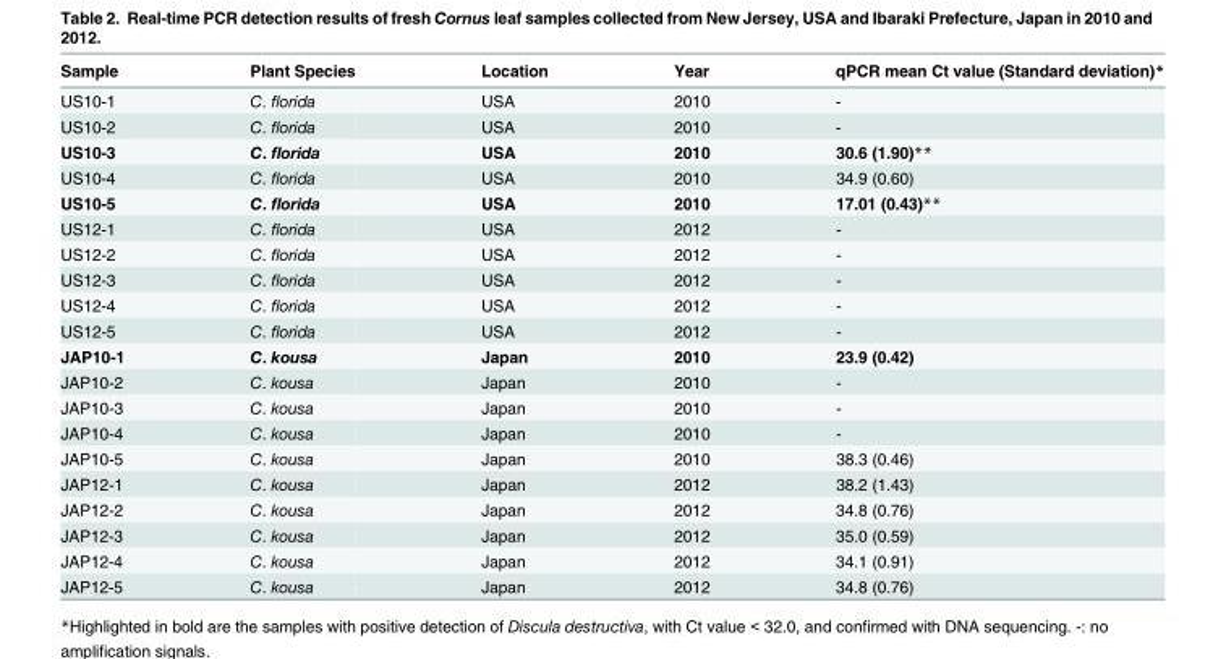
<table><thead><tr><td>Sample</td><td>Plant Species</td><td>Location</td><td>Year</td><td>qPCR mean Ct value (Standard deviation)*</td></tr></thead><tbody><tr><td>US10-1</td><td>C. florida</td><td>USA</td><td>2010</td><td>-</td></tr><tr><td>US10-2</td><td>C. florida</td><td>USA</td><td>2010</td><td>-</td></tr><tr><td>US10-3</td><td>C. florida</td><td>USA</td><td>2010</td><td>30.6 (1.90)**</td></tr><tr><td>US10-4</td><td>C. florida</td><td>USA</td><td>2010</td><td>34.9 (0.60)</td></tr><tr><td>US10-5</td><td>C. florida</td><td>USA</td><td>2010</td><td>17.01 (0.43)**</td></tr><tr><td>US12-1</td><td>C. florida</td><td>USA</td><td>2012</td><td>-</td></tr><tr><td>US12-2</td><td>C. florida</td><td>USA</td><td>2012</td><td>-</td></tr><tr><td>US12-3</td><td>C. florida</td><td>USA</td><td>2012</td><td>-</td></tr><tr><td>US12-4</td><td>C. florida</td><td>USA</td><td>2012</td><td>-</td></tr><tr><td>US12-5</td><td>C. florida</td><td>USA</td><td>2012</td><td>-</td></tr><tr><td>JAP10-1</td><td>C. kousa</td><td>Japan</td><td>2010</td><td>23.9 (0.42)</td></tr><tr><td>JAP10-2</td><td>C. kousa</td><td>Japan</td><td>2010</td><td>-</td></tr><tr><td>JAP10-3</td><td>C. kousa</td><td>Japan</td><td>2010</td><td>-</td></tr><tr><td>JAP10-4</td><td>C. kousa</td><td>Japan</td><td>2010</td><td>-</td></tr><tr><td>JAP10-5</td><td>C. kousa</td><td>Japan</td><td>2010</td><td>38.3 (0.46)</td></tr><tr><td>JAP12-1</td><td>C. kousa</td><td>Japan</td><td>2012</td><td>38.2 (1.43)</td></tr><tr><td>JAP12-2</td><td>C. kousa</td><td>Japan</td><td>2012</td><td>34.8 (0.76)</td></tr><tr><td>JAP12-3</td><td>C. kousa</td><td>Japan</td><td>2012</td><td>35.0 (0.59)</td></tr><tr><td>JAP12-4</td><td>C. kousa</td><td>Japan</td><td>2012</td><td>34.1 (0.91)</td></tr><tr><td>JAP12-5</td><td>C. kousa</td><td>Japan</td><td>2012</td><td>34.8 (0.76)</td></tr></tbody></table>